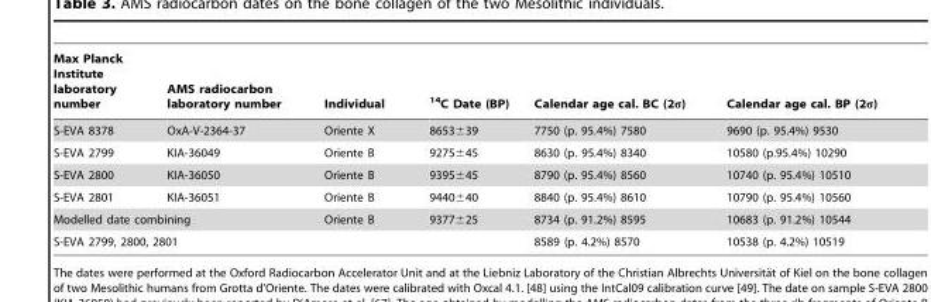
<table><thead><tr><td>Max Planck Institute laboratory number</td><td>AMS radiocarbon laboratory number</td><td>Individual</td><td><sup>14</sup>C Date (BP)</td><td>Calendar age cal. BC (2σ)</td><td>Calendar age cal. BP (2σ)</td></tr></thead><tbody><tr><td>S-EVA 8378</td><td>OxA-V-2364-37</td><td>Oriente X</td><td>8653±39</td><td>7750 (p. 95.4%) 7580</td><td>9690 (p. 95.4%) 9530</td></tr><tr><td>S-EVA 2799</td><td>KIA-36049</td><td>Oriente B</td><td>9275±45</td><td>8630 (p. 95.4%) 8340</td><td>10580 (p.95.4%) 10290</td></tr><tr><td>S-EVA 2800</td><td>KIA-36050</td><td>Oriente B</td><td>9395±45</td><td>8790 (p. 95.4%) 8560</td><td>10740 (p. 95.4%) 10510</td></tr><tr><td>S-EVA 2801</td><td>KIA-36051</td><td>Oriente B</td><td>9440±40</td><td>8840 (p. 95.4%) 8610</td><td>10790 (p. 95.4%) 10560</td></tr><tr><td colspan="2">Modelled date combining</td><td>Oriente B</td><td>9377±25</td><td>8734 (p. 91.2%) 8595</td><td>10683 (p. 91.2%) 10544</td></tr><tr><td colspan="2">S-EVA 2799, 2800, 2801</td><td></td><td></td><td>8589 (p. 4.2%) 8570</td><td>10538 (p. 4.2%) 10519</td></tr></tbody></table>